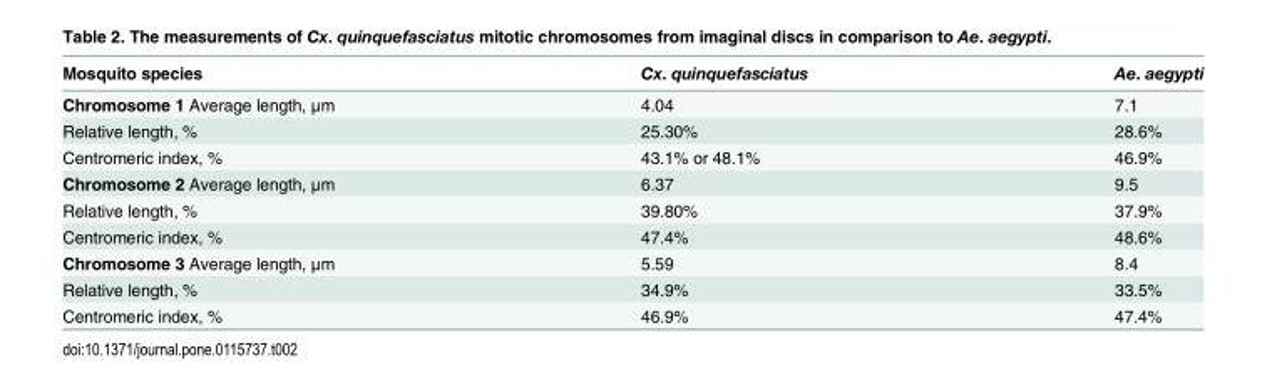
<table><thead><tr><td>Mosquito species</td><td>Cx. quinquefasciatus</td><td>Ae. aegypti</td></tr></thead><tbody><tr><td>Chromosome 1 Average length, μm</td><td>4.04</td><td>7.1</td></tr><tr><td>Relative length, %</td><td>25.30%</td><td>28.6%</td></tr><tr><td>Centromeric index, %</td><td>43.1% or 48.1%</td><td>46.9%</td></tr><tr><td>Chromosome 2 Average length, μm</td><td>6.37</td><td>9.5</td></tr><tr><td>Relative length, %</td><td>39.80%</td><td>37.9%</td></tr><tr><td>Centromeric index, %</td><td>47.4%</td><td>48.6%</td></tr><tr><td>Chromosome 3 Average length, μm</td><td>5.59</td><td>8.4</td></tr><tr><td>Relative length, %</td><td>34.9%</td><td>33.5%</td></tr><tr><td>Centromeric index, %</td><td>46.9%</td><td>47.4%</td></tr></tbody></table>